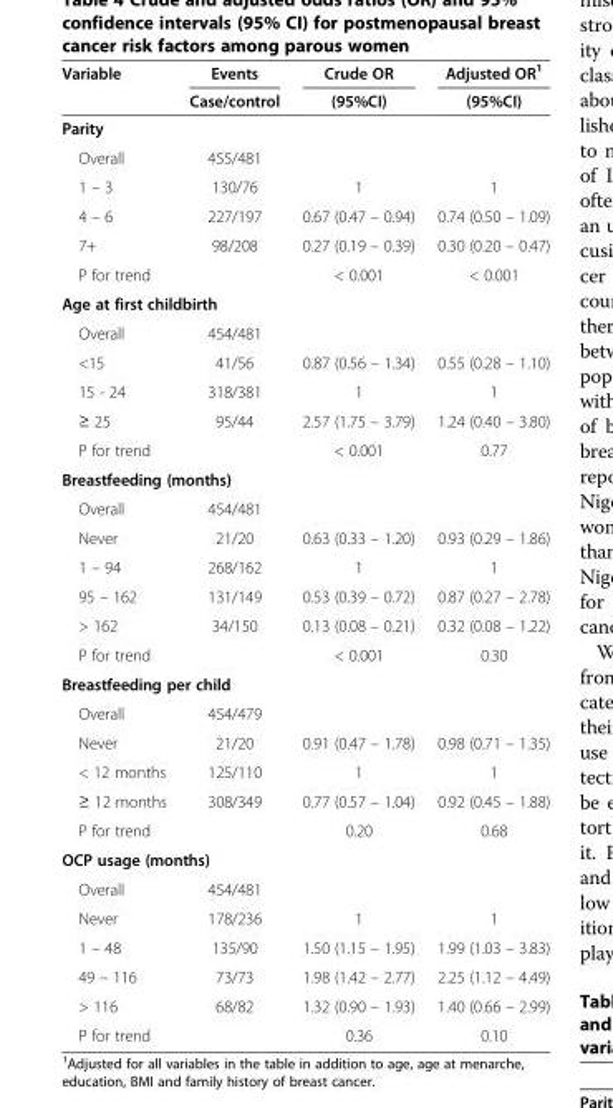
<table><thead><tr><td rowspan="2">Variable</td><td rowspan="2">Events Case/control</td><td rowspan="2">Crude OR (95%CI)</td><td rowspan="2">Adjusted OR<sup>1</sup> (95%CI)</td></tr><tr></tr></thead><tbody><tr><td colspan="4">Parity</td></tr><tr><td>Overall</td><td>455/481</td><td></td><td></td></tr><tr><td>1 – 3</td><td>130/76</td><td>1</td><td>1</td></tr><tr><td>4 – 6</td><td>227/197</td><td>0.67 (0.47 – 0.94)</td><td>0.74 (0.50 – 1.09)</td></tr><tr><td>7+</td><td>98/208</td><td>0.27 (0.19 – 0.39)</td><td>0.30 (0.20 – 0.47)</td></tr><tr><td>P for trend</td><td></td><td>&lt; 0.001</td><td>&lt; 0.001</td></tr><tr><td colspan="4">Age at first childbirth</td></tr><tr><td>Overall</td><td>454/481</td><td></td><td></td></tr><tr><td>&lt;15</td><td>41/56</td><td>0.87 (0.56 – 1.34)</td><td>0.55 (0.28 – 1.10)</td></tr><tr><td>15 - 24</td><td>318/381</td><td>1</td><td>1</td></tr><tr><td>≥ 25</td><td>95/44</td><td>2.57 (1.75 – 3.79)</td><td>1.24 (0.40 – 3.80)</td></tr><tr><td>P for trend</td><td></td><td>&lt; 0.001</td><td>0.77</td></tr><tr><td colspan="4">Breastfeeding (months)</td></tr><tr><td>Overall</td><td>454/481</td><td></td><td></td></tr><tr><td>Never</td><td>21/20</td><td>0.63 (0.33 – 1.20)</td><td>0.93 (0.29 – 1.86)</td></tr><tr><td>1 – 94</td><td>268/162</td><td>1</td><td>1</td></tr><tr><td>95 – 162</td><td>131/149</td><td>0.53 (0.39 – 0.72)</td><td>0.87 (0.27 – 2.78)</td></tr><tr><td>&gt; 162</td><td>34/150</td><td>0.13 (0.08 – 0.21)</td><td>0.32 (0.08 – 1.22)</td></tr><tr><td>P for trend</td><td></td><td>&lt; 0.001</td><td>0.30</td></tr><tr><td colspan="4">Breastfeeding per child</td></tr><tr><td>Overall</td><td>454/479</td><td></td><td></td></tr><tr><td>Never</td><td>21/20</td><td>0.91 (0.47 – 1.78)</td><td>0.98 (0.71 – 1.35)</td></tr><tr><td>&lt; 12 months</td><td>125/110</td><td>1</td><td>1</td></tr><tr><td>≥ 12 months</td><td>308/349</td><td>0.77 (0.57 – 1.04)</td><td>0.92 (0.45 – 1.88)</td></tr><tr><td>P for trend</td><td></td><td>0.20</td><td>0.68</td></tr><tr><td colspan="4">OCP usage (months)</td></tr><tr><td>Overall</td><td>454/481</td><td></td><td></td></tr><tr><td>Never</td><td>178/236</td><td>1</td><td>1</td></tr><tr><td>1 – 48</td><td>135/90</td><td>1.50 (1.15 – 1.95)</td><td>1.99 (1.03 – 3.83)</td></tr><tr><td>49 – 116</td><td>73/73</td><td>1.98 (1.42 – 2.77)</td><td>2.25 (1.12 – 4.49)</td></tr><tr><td>&gt; 116</td><td>68/82</td><td>1.32 (0.90 – 1.93)</td><td>1.40 (0.66 – 2.99)</td></tr><tr><td>P for trend</td><td></td><td>0.36</td><td>0.10</td></tr></tbody></table>